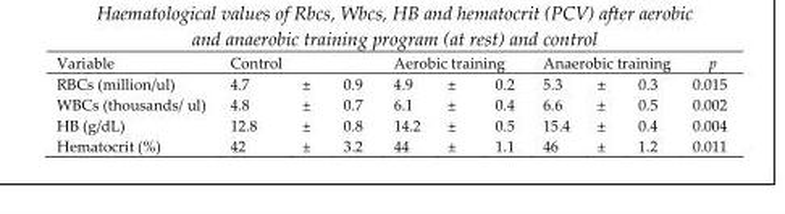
<table><thead><tr><td>Variable</td><td>Control</td><td>Aerobic training</td><td>Anaerobic training</td><td>p</td></tr></thead><tbody><tr><td>RBCs (million/ul)</td><td>4.7 ± 0.9</td><td>4.9 ± 0.2</td><td>5.3 ± 0.3</td><td>0.015</td></tr><tr><td>WBCs (thousands/ ul)</td><td>4.8 ± 0.7</td><td>6.1 ± 0.4</td><td>6.6 ± 0.5</td><td>0.002</td></tr><tr><td>HB (g/dL)</td><td>12.8 ± 0.8</td><td>14.2 ± 0.5</td><td>15.4 ± 0.4</td><td>0.004</td></tr><tr><td>Hematocrit (%)</td><td>42 ± 3.2</td><td>44 ± 1.1</td><td>46 ± 1.2</td><td>0.011</td></tr></tbody></table>